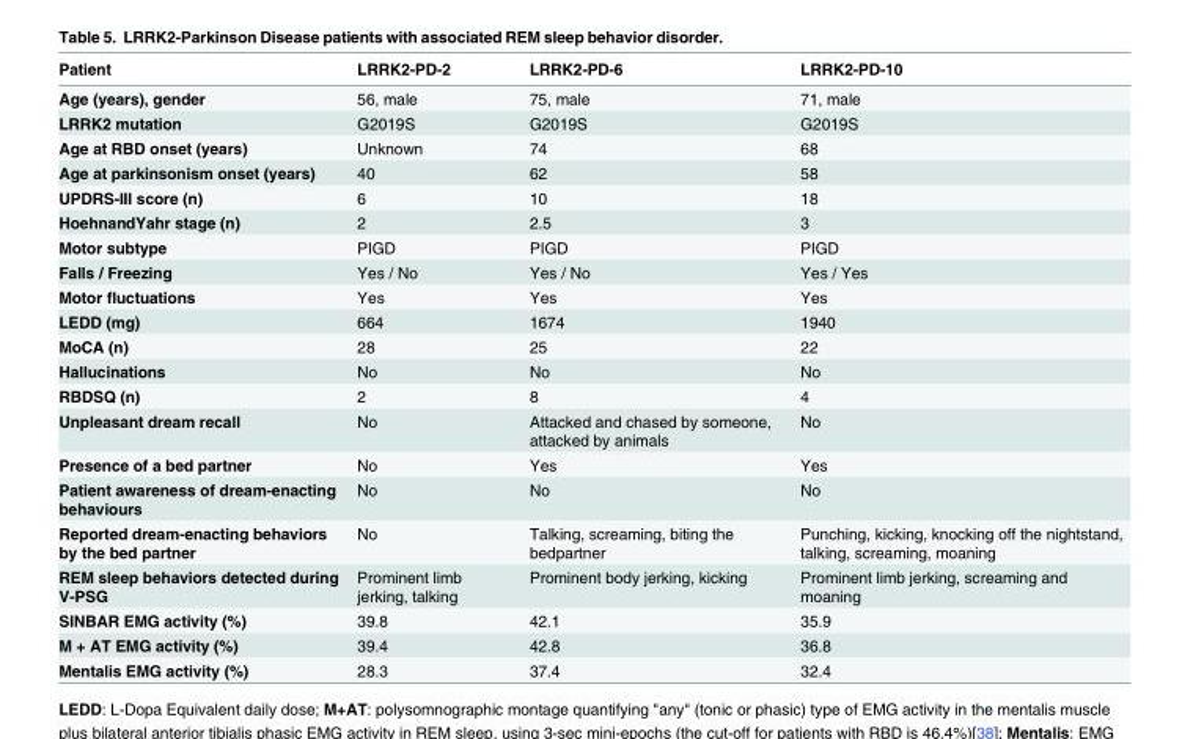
<table><thead><tr><td>Patient</td><td>LRRK2-PD-2</td><td>LRRK2-PD-6</td><td>LRRK2-PD-10</td></tr></thead><tbody><tr><td>Age (years), gender</td><td>56, male</td><td>75, male</td><td>71, male</td></tr><tr><td>LRRK2 mutation</td><td>G2019S</td><td>G2019S</td><td>G2019S</td></tr><tr><td>Age at RBD onset (years)</td><td>Unknown</td><td>74</td><td>68</td></tr><tr><td>Age at parkinsonism onset (years)</td><td>40</td><td>62</td><td>58</td></tr><tr><td>UPDRS-III score (n)</td><td>6</td><td>10</td><td>18</td></tr><tr><td>HoehnandYahr stage (n)</td><td>2</td><td>2.5</td><td>3</td></tr><tr><td>Motor subtype</td><td>PIGD</td><td>PIGD</td><td>PIGD</td></tr><tr><td>Falls / Freezing</td><td>Yes / No</td><td>Yes / No</td><td>Yes / Yes</td></tr><tr><td>Motor fluctuations</td><td>Yes</td><td>Yes</td><td>Yes</td></tr><tr><td>LEDD (mg)</td><td>664</td><td>1674</td><td>1940</td></tr><tr><td>MoCA (n)</td><td>28</td><td>25</td><td>22</td></tr><tr><td>Hallucinations</td><td>No</td><td>No</td><td>No</td></tr><tr><td>RBDSQ (n)</td><td>2</td><td>8</td><td>4</td></tr><tr><td>Unpleasant dream recall</td><td>No</td><td>Attacked and chased by someone, attacked by animals</td><td>No</td></tr><tr><td>Presence of a bed partner</td><td>No</td><td>Yes</td><td>Yes</td></tr><tr><td>Patient awareness of dream-enacting behaviours</td><td>No</td><td>No</td><td>No</td></tr><tr><td>Reported dream-enacting behaviors by the bed partner</td><td>No</td><td>Talking, screaming, biting the bedpartner</td><td>Punching, kicking, knocking off the nightstand, talking, screaming, moaning</td></tr><tr><td>REM sleep behaviors detected during V-PSG</td><td>Prominent limb jerking, talking</td><td>Prominent body jerking, kicking</td><td>Prominent limb jerking, screaming and moaning</td></tr><tr><td>SINBAR EMG activity (%)</td><td>39.8</td><td>42.1</td><td>35.9</td></tr><tr><td>M + AT EMG activity (%)</td><td>39.4</td><td>42.8</td><td>36.8</td></tr><tr><td>Mentalis EMG activity (%)</td><td>28.3</td><td>37.4</td><td>32.4</td></tr></tbody></table>